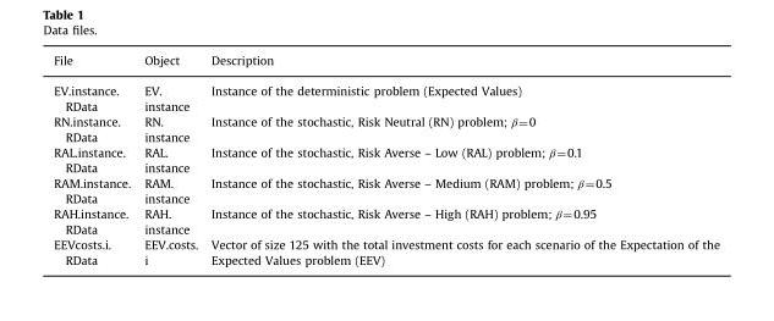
<table><thead><tr><td>File</td><td>Object</td><td>Description</td></tr></thead><tbody><tr><td>EV.instance. RData</td><td>EV. instance</td><td>Instance of the deterministic problem (Expected Values)</td></tr><tr><td>RN.instance. RData</td><td>RN. instance</td><td>Instance of the stochastic, Risk Neutral (RN) problem; β=0</td></tr><tr><td>RAL.instance. RData</td><td>RAL. instance</td><td>Instance of the stochastic, Risk Averse – Low (RAL) problem; β=0.1</td></tr><tr><td>RAM.instance. RData</td><td>RAM. instance</td><td>Instance of the stochastic, Risk Averse – Medium (RAM) problem; β=0.5</td></tr><tr><td>RAH.instance. RData</td><td>RAH. instance</td><td>Instance of the stochastic, Risk Averse – High (RAH) problem; β=0.95</td></tr><tr><td>EEVcosts.i. RData</td><td>EEV.costs. i</td><td>Vector of size 125 with the total investment costs for each scenario of the Expectation of the Expected Values problem (EEV)</td></tr></tbody></table>